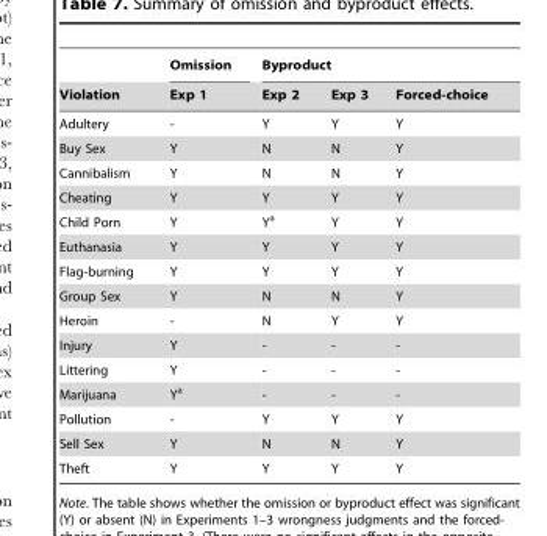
<table><thead><tr><td rowspan="2">Violation</td><td rowspan="2">Omission Exp 1</td><td colspan="3">Byproduct</td></tr><tr><td>Exp 2</td><td>Exp 3</td><td>Forced-choice</td></tr></thead><tbody><tr><td>Adultery</td><td>-</td><td>Y</td><td>Y</td><td>Y</td></tr><tr><td>Buy Sex</td><td>Y</td><td>N</td><td>N</td><td>Y</td></tr><tr><td>Cannibalism</td><td>Y</td><td>N</td><td>N</td><td>Y</td></tr><tr><td>Cheating</td><td>Y</td><td>Y</td><td>Y</td><td>Y</td></tr><tr><td>Child Porn</td><td>Y</td><td>Y<sup>a</sup></td><td>Y</td><td>Y</td></tr><tr><td>Euthanasia</td><td>Y</td><td>Y</td><td>Y</td><td>Y</td></tr><tr><td>Flag-burning</td><td>Y</td><td>Y</td><td>Y</td><td>Y</td></tr><tr><td>Group Sex</td><td>Y</td><td>N</td><td>N</td><td>Y</td></tr><tr><td>Heroin</td><td>-</td><td>N</td><td>Y</td><td>Y</td></tr><tr><td>Injury</td><td>Y</td><td>-</td><td>-</td><td>-</td></tr><tr><td>Littering</td><td>Y</td><td>-</td><td>-</td><td>-</td></tr><tr><td>Marijuana</td><td>Y<sup>a</sup></td><td>-</td><td>-</td><td>-</td></tr><tr><td>Pollution</td><td>-</td><td>Y</td><td>Y</td><td>Y</td></tr><tr><td>Sell Sex</td><td>Y</td><td>N</td><td>N</td><td>Y</td></tr><tr><td>Theft</td><td>Y</td><td>Y</td><td>Y</td><td>Y</td></tr></tbody></table>